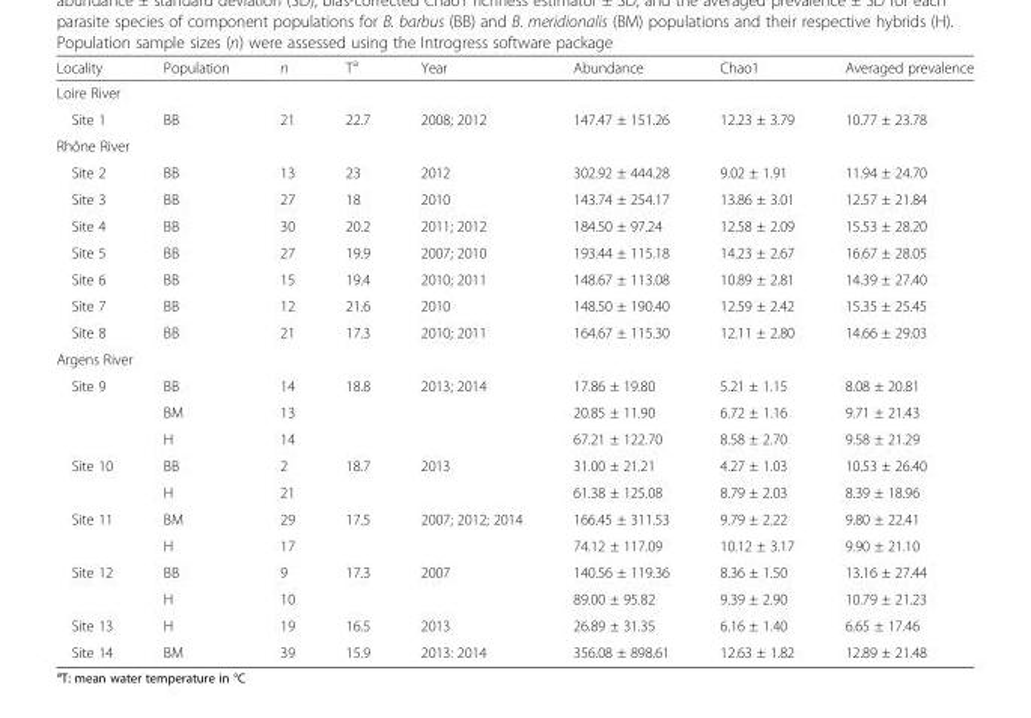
<table><thead><tr><td>Locality</td><td>Population</td><td>n</td><td>T<sup>a</sup></td><td>Year</td><td>Abundance</td><td>Chao1</td><td>Averaged prevalence</td></tr></thead><tbody><tr><td colspan="8">Loire River</td></tr><tr><td>Site 1</td><td>BB</td><td>21</td><td>22.7</td><td>2008; 2012</td><td>147.47 ± 151.26</td><td>12.23 ± 3.79</td><td>10.77 ± 23.78</td></tr><tr><td colspan="8">Rhône River</td></tr><tr><td>Site 2</td><td>BB</td><td>13</td><td>23</td><td>2012</td><td>302.92 ± 444.28</td><td>9.02 ± 1.91</td><td>11.94 ± 24.70</td></tr><tr><td>Site 3</td><td>BB</td><td>27</td><td>18</td><td>2010</td><td>143.74 ± 254.17</td><td>13.86 ± 3.01</td><td>12.57 ± 21.84</td></tr><tr><td>Site 4</td><td>BB</td><td>30</td><td>20.2</td><td>2011; 2012</td><td>184.50 ± 97.24</td><td>12.58 ± 2.09</td><td>15.53 ± 28.20</td></tr><tr><td>Site 5</td><td>BB</td><td>27</td><td>19.9</td><td>2007; 2010</td><td>193.44 ± 115.18</td><td>14.23 ± 2.67</td><td>16.67 ± 28.05</td></tr><tr><td>Site 6</td><td>BB</td><td>15</td><td>19.4</td><td>2010; 2011</td><td>148.67 ± 113.08</td><td>10.89 ± 2.81</td><td>14.39 ± 27.40</td></tr><tr><td>Site 7</td><td>BB</td><td>12</td><td>21.6</td><td>2010</td><td>148.50 ± 190.40</td><td>12.59 ± 2.42</td><td>15.35 ± 25.45</td></tr><tr><td>Site 8</td><td>BB</td><td>21</td><td>17.3</td><td>2010; 2011</td><td>164.67 ± 115.30</td><td>12.11 ± 2.80</td><td>14.66 ± 29.03</td></tr><tr><td colspan="8">Argens River</td></tr><tr><td rowspan="3">Site 9</td><td>BB</td><td>14</td><td>18.8</td><td>2013; 2014</td><td>17.86 ± 19.80</td><td>5.21 ± 1.15</td><td>8.08 ± 20.81</td></tr><tr><td>BM</td><td>13</td><td></td><td></td><td>20.85 ± 11.90</td><td>6.72 ± 1.16</td><td>9.71 ± 21.43</td></tr><tr><td>H</td><td>14</td><td></td><td></td><td>67.21 ± 122.70</td><td>8.58 ± 2.70</td><td>9.58 ± 21.29</td></tr><tr><td rowspan="2">Site 10</td><td>BB</td><td>2</td><td>18.7</td><td>2013</td><td>31.00 ± 21.21</td><td>4.27 ± 1.03</td><td>10.53 ± 26.40</td></tr><tr><td>H</td><td>21</td><td></td><td></td><td>61.38 ± 125.08</td><td>8.79 ± 2.03</td><td>8.39 ± 18.96</td></tr><tr><td rowspan="2">Site 11</td><td>BM</td><td>29</td><td>17.5</td><td>2007; 2012; 2014</td><td>166.45 ± 311.53</td><td>9.79 ± 2.22</td><td>9.80 ± 22.41</td></tr><tr><td>H</td><td>17</td><td></td><td></td><td>74.12 ± 117.09</td><td>10.12 ± 3.17</td><td>9.90 ± 21.10</td></tr><tr><td rowspan="2">Site 12</td><td>BB</td><td>9</td><td>17.3</td><td>2007</td><td>140.56 ± 119.36</td><td>8.36 ± 1.50</td><td>13.16 ± 27.44</td></tr><tr><td>H</td><td>10</td><td></td><td></td><td>89.00 ± 95.82</td><td>9.39 ± 2.90</td><td>10.79 ± 21.23</td></tr><tr><td>Site 13</td><td>H</td><td>19</td><td>16.5</td><td>2013</td><td>26.89 ± 31.35</td><td>6.16 ± 1.40</td><td>6.65 ± 17.46</td></tr><tr><td>Site 14</td><td>BM</td><td>39</td><td>15.9</td><td>2013: 2014</td><td>356.08 ± 898.61</td><td>12.63 ± 1.82</td><td>12.89 ± 21.48</td></tr></tbody></table>